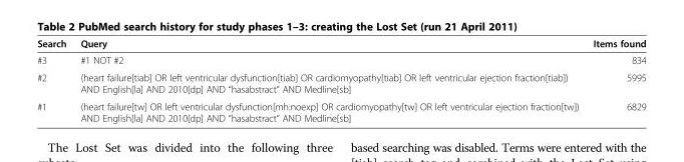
<table><thead><tr><td>Search</td><td>Query</td><td>Items found</td></tr></thead><tbody><tr><td>#3</td><td>#1 NOT #2</td><td>834</td></tr><tr><td>#2</td><td>(heart failure[tiab] OR left ventricular dysfunction[tiab] OR cardiomyopathy[tiab] OR left ventricular ejection fraction[tiab]) AND English[la] AND 2010[dp] AND “hasabstract” AND Medline[sb]</td><td>5995</td></tr><tr><td>#1</td><td>(heart failure[tw] OR left ventricular dysfunction[mh:noexp] OR cardiomyopathy[tw] OR left ventricular ejection fraction[tw]) AND English[la] AND 2010[dp] AND “hasabstract” AND Medline[sb]</td><td>6829</td></tr></tbody></table>